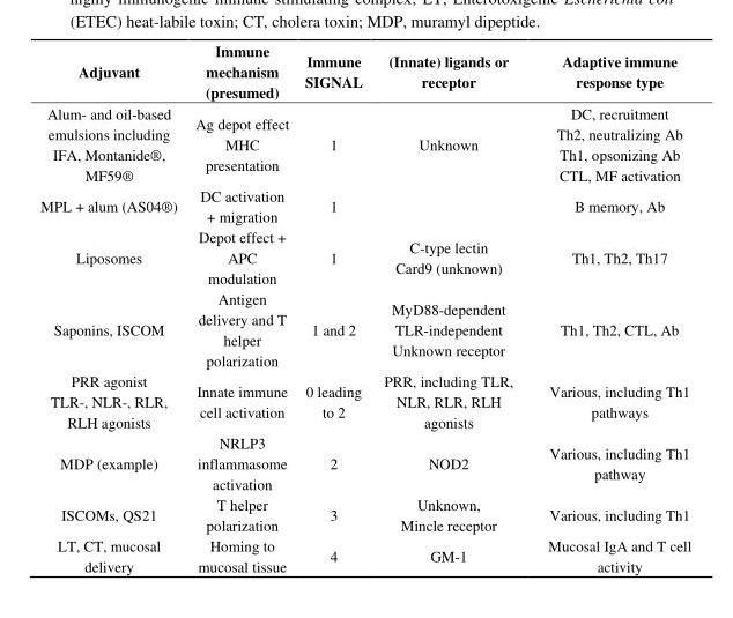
<table><thead><tr><td>Adjuvant</td><td>Immune mechanism (presumed)</td><td>Immune SIGNAL</td><td>(Innate) ligands or receptor</td><td>Adaptive immune response type</td></tr></thead><tbody><tr><td>Alum- and oil-based emulsions including IFA, Montanide®, MF59®</td><td>Ag depot effect MHC presentation</td><td>1</td><td>Unknown</td><td>DC, recruitment Th2, neutralizing Ab Th1, opsonizing Ab CTL, MF activation</td></tr><tr><td>MPL + alum (AS04®)</td><td>DC activation + migration</td><td>1</td><td></td><td>B memory, Ab</td></tr><tr><td>Liposomes</td><td>Depot effect + APC modulation</td><td>1</td><td>C-type lectin Card9 (unknown)</td><td>Th1, Th2, Th17</td></tr><tr><td>Saponins, ISCOM</td><td>Antigen delivery and T helper polarization</td><td>1 and 2</td><td>MyD88-dependent TLR-independent Unknown receptor</td><td>Th1, Th2, CTL, Ab</td></tr><tr><td>PRR agonist TLR-, NLR-, RLR, RLH agonists</td><td>Innate immune cell activation</td><td>0 leading to 2</td><td>PRR, including TLR, NLR, RLR, RLH agonists</td><td>Various, including Th1 pathways</td></tr><tr><td>MDP (example)</td><td>NRLP3 inflammasome activation</td><td>2</td><td>NOD2</td><td>Various, including Th1 pathway</td></tr><tr><td>ISCOMs, QS21</td><td>T helper polarization</td><td>3</td><td>Unknown, Mincle receptor</td><td>Various, including Th1</td></tr><tr><td>LT, CT, mucosal delivery</td><td>Homing to mucosal tissue</td><td>4</td><td>GM-1</td><td>Mucosal IgA and T cell activity</td></tr></tbody></table>